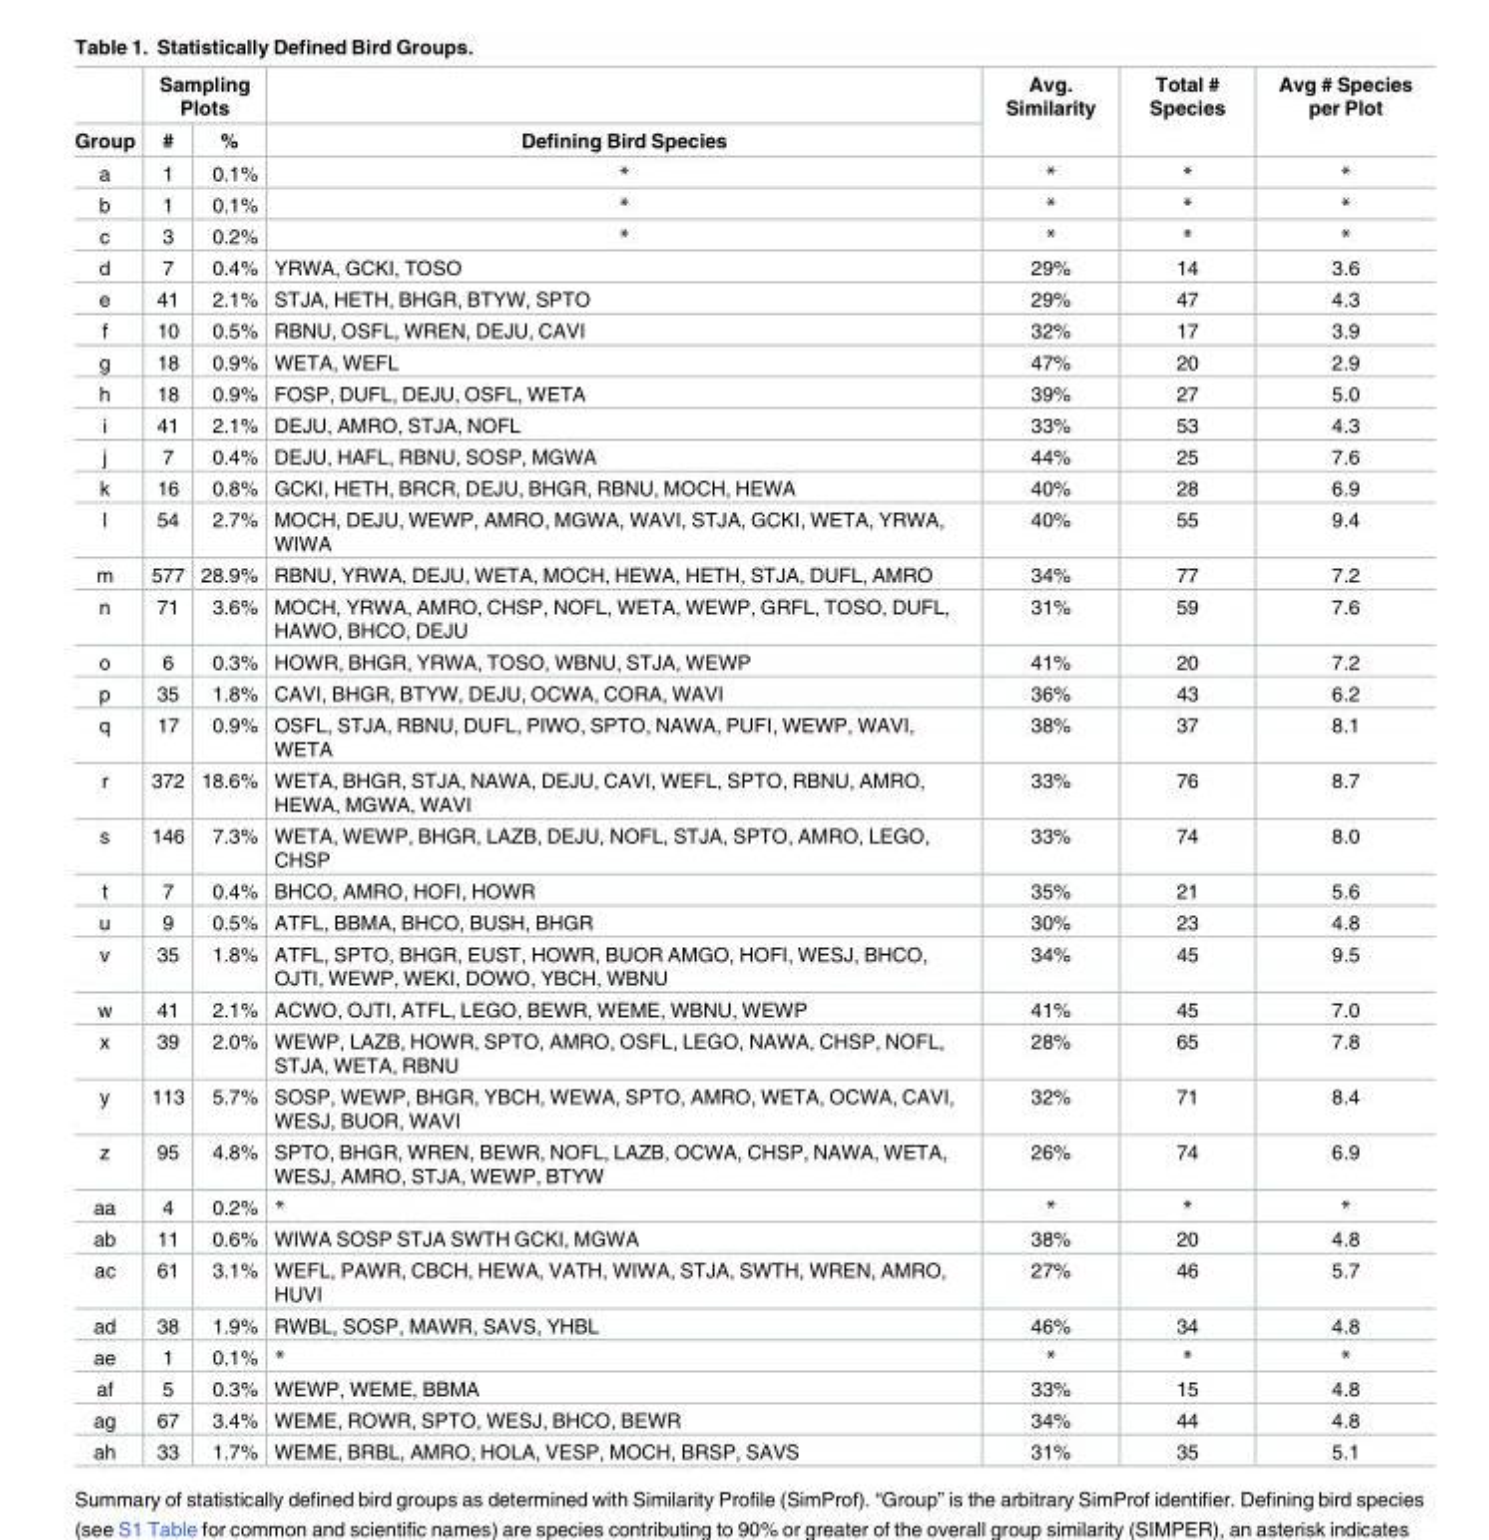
<table><thead><tr><td rowspan="2">Group</td><td colspan="2">Sampling Plots</td><td rowspan="2">Defining Bird Species</td><td rowspan="2">Avg. Similarity</td><td rowspan="2">Total # Species</td><td rowspan="2">Avg # Species per Plot</td></tr><tr><td>#</td><td>%</td></tr></thead><tbody><tr><td>a</td><td>1</td><td>0.1%</td><td>*</td><td>*</td><td>*</td><td>*</td></tr><tr><td>b</td><td>1</td><td>0.1%</td><td>*</td><td>*</td><td>*</td><td>*</td></tr><tr><td>c</td><td>3</td><td>0.2%</td><td>*</td><td>*</td><td>*</td><td>*</td></tr><tr><td>d</td><td>7</td><td>0.4%</td><td>YRWA, GCKI, TOSO</td><td>29%</td><td>14</td><td>3.6</td></tr><tr><td>e</td><td>41</td><td>2.1%</td><td>STJA, HETH, BHGR, BTYW, SPTO</td><td>29%</td><td>47</td><td>4.3</td></tr><tr><td>f</td><td>10</td><td>0.5%</td><td>RBNU, OSFL, WREN, DEJU, CAVI</td><td>32%</td><td>17</td><td>3.9</td></tr><tr><td>g</td><td>18</td><td>0.9%</td><td>WETA, WEFL</td><td>47%</td><td>20</td><td>2.9</td></tr><tr><td>h</td><td>18</td><td>0.9%</td><td>FOSP, DUFL, DEJU, OSFL, WETA</td><td>39%</td><td>27</td><td>5.0</td></tr><tr><td>i</td><td>41</td><td>2.1%</td><td>DEJU, AMRO, STJA, NOFL</td><td>33%</td><td>53</td><td>4.3</td></tr><tr><td>j</td><td>7</td><td>0.4%</td><td>DEJU, HAFL, RBNU, SOSP, MGWA</td><td>44%</td><td>25</td><td>7.6</td></tr><tr><td>k</td><td>16</td><td>0.8%</td><td>GCKI, HETH, BRCR, DEJU, BHGR, RBNU, MOCH, HEWA</td><td>40%</td><td>28</td><td>6.9</td></tr><tr><td>l</td><td>54</td><td>2.7%</td><td>MOCH, DEJU, WEWP, AMRO, MGWA, WAVI, STJA, GCKI, WETA, YRWA, WIWA</td><td>40%</td><td>55</td><td>9.4</td></tr><tr><td>m</td><td>577</td><td>28.9%</td><td>RBNU, YRWA, DEJU, WETA, MOCH, HEWA, HETH, STJA, DUFL, AMRO</td><td>34%</td><td>77</td><td>7.2</td></tr><tr><td>n</td><td>71</td><td>3.6%</td><td>MOCH, YRWA, AMRO, CHSP, NOFL, WETA, WEWP, GRFL, TOSO, DUFL, HAWO, BHCO, DEJU</td><td>31%</td><td>59</td><td>7.6</td></tr><tr><td>o</td><td>6</td><td>0.3%</td><td>HOWR, BHGR, YRWA, TOSO, WBNU, STJA, WEWP</td><td>41%</td><td>20</td><td>7.2</td></tr><tr><td>p</td><td>35</td><td>1.8%</td><td>CAVI, BHGR, BTYW, DEJU, OCWA, CORA, WAVI</td><td>36%</td><td>43</td><td>6.2</td></tr><tr><td>q</td><td>17</td><td>0.9%</td><td>OSFL, STJA, RBNU, DUFL, PIWO, SPTO, NAWA, PUFI, WEWP, WAVI, WETA</td><td>38%</td><td>37</td><td>8.1</td></tr><tr><td>r</td><td>372</td><td>18.6%</td><td>WETA, BHGR, STJA, NAWA, DEJU, CAVI, WEFL, SPTO, RBNU, AMRO, HEWA, MGWA, WAVI</td><td>33%</td><td>76</td><td>8.7</td></tr><tr><td>s</td><td>146</td><td>7.3%</td><td>WETA, WEWP, BHGR, LAZB, DEJU, NOFL, STJA, SPTO, AMRO, LEGO, CHSP</td><td>33%</td><td>74</td><td>8.0</td></tr><tr><td>t</td><td>7</td><td>0.4%</td><td>BHCO, AMRO, HOFI, HOWR</td><td>35%</td><td>21</td><td>5.6</td></tr><tr><td>u</td><td>9</td><td>0.5%</td><td>ATFL, BBMA, BHCO, BUSH, BHGR</td><td>30%</td><td>23</td><td>4.8</td></tr><tr><td>v</td><td>35</td><td>1.8%</td><td>ATFL, SPTO, BHGR, EUST, HOWR, BUOR AMGO, HOFI, WESJ, BHCO, OJTI, WEWP, WEKI, DOWO, YBCH, WBNU</td><td>34%</td><td>45</td><td>9.5</td></tr><tr><td>w</td><td>41</td><td>2.1%</td><td>ACWO, OJTI, ATFL, LEGO, BEWR, WEME, WBNU, WEWP</td><td>41%</td><td>45</td><td>7.0</td></tr><tr><td>x</td><td>39</td><td>2.0%</td><td>WEWP, LAZB, HOWR, SPTO, AMRO, OSFL, LEGO, NAWA, CHSP, NOFL, STJA, WETA, RBNU</td><td>28%</td><td>65</td><td>7.8</td></tr><tr><td>y</td><td>113</td><td>5.7%</td><td>SOSP, WEWP, BHGR, YBCH, WEWA, SPTO, AMRO, WETA, OCWA, CAVI, WESJ, BUOR, WAVI</td><td>32%</td><td>71</td><td>8.4</td></tr><tr><td>z</td><td>95</td><td>4.8%</td><td>SPTO, BHGR, WREN, BEWR, NOFL, LAZB, OCWA, CHSP, NAWA, WETA, WESJ, AMRO, STJA, WEWP, BTYW</td><td>26%</td><td>74</td><td>6.9</td></tr><tr><td>aa</td><td>4</td><td>0.2%</td><td>*</td><td>*</td><td>*</td><td>*</td></tr><tr><td>ab</td><td>11</td><td>0.6%</td><td>WIWA SOSP STJA SWTH GCKI, MGWA</td><td>38%</td><td>20</td><td>4.8</td></tr><tr><td>ac</td><td>61</td><td>3.1%</td><td>WEFL, PAWR, CBCH, HEWA, VATH, WIWA, STJA, SWTH, WREN, AMRO, HUVI</td><td>27%</td><td>46</td><td>5.7</td></tr><tr><td>ad</td><td>38</td><td>1.9%</td><td>RWBL, SOSP, MAWR, SAVS, YHBL</td><td>46%</td><td>34</td><td>4.8</td></tr><tr><td>ae</td><td>1</td><td>0.1%</td><td>*</td><td>*</td><td>*</td><td>*</td></tr><tr><td>af</td><td>5</td><td>0.3%</td><td>WEWP, WEME, BBMA</td><td>33%</td><td>15</td><td>4.8</td></tr><tr><td>ag</td><td>67</td><td>3.4%</td><td>WEME, ROWR, SPTO, WESJ, BHCO, BEWR</td><td>34%</td><td>44</td><td>4.8</td></tr><tr><td>ah</td><td>33</td><td>1.7%</td><td>WEME, BRBL, AMRO, HOLA, VESP, MOCH, BRSP, SAVS</td><td>31%</td><td>35</td><td>5.1</td></tr></tbody></table>